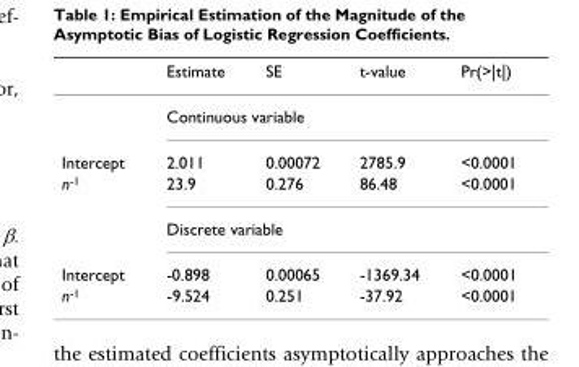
<table><thead><tr><td></td><td>Estimate</td><td>SE</td><td>t-value</td><td>Pr(&gt;|t|)</td></tr></thead><tbody><tr><td></td><td colspan="4">Continuous variable</td></tr><tr><td>Intercept</td><td>2.011</td><td>0.00072</td><td>2785.9</td><td>&lt;0.0001</td></tr><tr><td rowspan="2">n<sup>-1</sup></td><td>23.9</td><td>0.276</td><td>86.48</td><td>&lt;0.0001</td></tr><tr><td colspan="4">Discrete variable</td></tr><tr><td>Intercept</td><td>-0.898</td><td>0.00065</td><td>-1369.34</td><td>&lt;0.0001</td></tr><tr><td>n<sup>-1</sup></td><td>-9.524</td><td>0.251</td><td>-37.92</td><td>&lt;0.0001</td></tr></tbody></table>